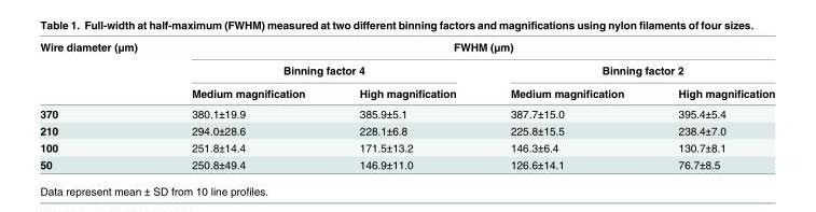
<table><thead><tr><td rowspan="3">Wire diameter (μm)</td><td colspan="4">FWHM (μm)</td></tr><tr><td colspan="2">Binning factor 4</td><td colspan="2">Binning factor 2</td></tr><tr><td>Medium magnification</td><td>High magnification</td><td>Medium magnification</td><td>High magnification</td></tr></thead><tbody><tr><td>370</td><td>380.1±19.9</td><td>385.9±5.1</td><td>387.7±15.0</td><td>395.4±5.4</td></tr><tr><td>210</td><td>294.0±28.6</td><td>228.1±6.8</td><td>225.8±15.5</td><td>238.4±7.0</td></tr><tr><td>100</td><td>251.8±14.4</td><td>171.5±13.2</td><td>146.3±6.4</td><td>130.7±8.1</td></tr><tr><td>50</td><td>250.8±49.4</td><td>146.9±11.0</td><td>126.6±14.1</td><td>76.7±8.5</td></tr></tbody></table>